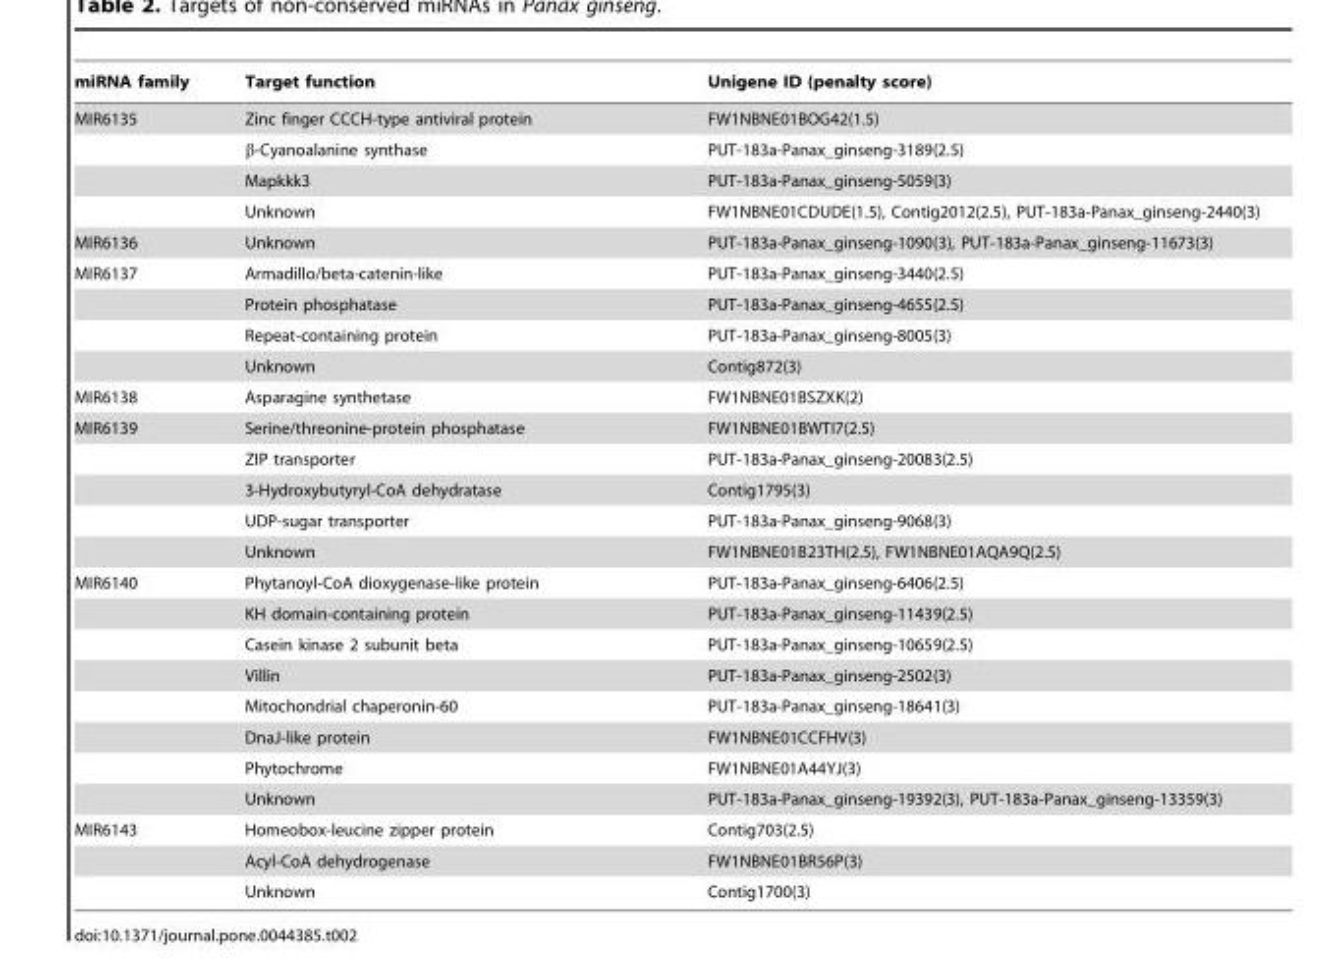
<table><thead><tr><td>miRNA family</td><td>Target function</td><td>Unigene ID (penalty score)</td></tr></thead><tbody><tr><td rowspan="4">MIR6135</td><td>Zinc finger CCCH-type antiviral protein</td><td>FW1NBNE01BOG42(1.5)</td></tr><tr><td>β-Cyanoalanine synthase</td><td>PUT-183a-Panax_ginseng-3189(2.5)</td></tr><tr><td>Mapkkk3</td><td>PUT-183a-Panax_ginseng-5059(3)</td></tr><tr><td>Unknown</td><td>FW1NBNE01CDUDE(1.5), Contig2012(2.5), PUT-183a-Panax_ginseng-2440(3)</td></tr><tr><td>MIR6136</td><td>Unknown</td><td>PUT-183a-Panax_ginseng-1090(3), PUT-183a-Panax_ginseng-11673(3)</td></tr><tr><td rowspan="4">MIR6137</td><td>Armadillo/beta-catenin-like</td><td>PUT-183a-Panax_ginseng-3440(2.5)</td></tr><tr><td>Protein phosphatase</td><td>PUT-183a-Panax_ginseng-4655(2.5)</td></tr><tr><td>Repeat-containing protein</td><td>PUT-183a-Panax_ginseng-8005(3)</td></tr><tr><td>Unknown</td><td>Contig872(3)</td></tr><tr><td>MIR6138</td><td>Asparagine synthetase</td><td>FW1NBNE01BSZXK(2)</td></tr><tr><td rowspan="5">MIR6139</td><td>Serine/threonine-protein phosphatase</td><td>FW1NBNE01BWTI7(2.5)</td></tr><tr><td>ZIP transporter</td><td>PUT-183a-Panax_ginseng-20083(2.5)</td></tr><tr><td>3-Hydroxybutyryl-CoA dehydratase</td><td>Contig1795(3)</td></tr><tr><td>UDP-sugar transporter</td><td>PUT-183a-Panax_ginseng-9068(3)</td></tr><tr><td>Unknown</td><td>FW1NBNE01B23TH(2.5), FW1NBNE01AQA9Q(2.5)</td></tr><tr><td rowspan="8">MIR6140</td><td>Phytanoyl-CoA dioxygenase-like protein</td><td>PUT-183a-Panax_ginseng-6406(2.5)</td></tr><tr><td>KH domain-containing protein</td><td>PUT-183a-Panax_ginseng-11439(2.5)</td></tr><tr><td>Casein kinase 2 subunit beta</td><td>PUT-183a-Panax_ginseng-10659(2.5)</td></tr><tr><td>Villin</td><td>PUT-183a-Panax_ginseng-2502(3)</td></tr><tr><td>Mitochondrial chaperonin-60</td><td>PUT-183a-Panax_ginseng-18641(3)</td></tr><tr><td>DnaJ-like protein</td><td>FW1NBNE01CCFHV(3)</td></tr><tr><td>Phytochrome</td><td>FW1NBNE01A44YJ(3)</td></tr><tr><td>Unknown</td><td>PUT-183a-Panax_ginseng-19392(3), PUT-183a-Panax_ginseng-13359(3)</td></tr><tr><td rowspan="3">MIR6143</td><td>Homeobox-leucine zipper protein</td><td>Contig703(2.5)</td></tr><tr><td>Acyl-CoA dehydrogenase</td><td>FW1NBNE01BR56P(3)</td></tr><tr><td>Unknown</td><td>Contig1700(3)</td></tr></tbody></table>